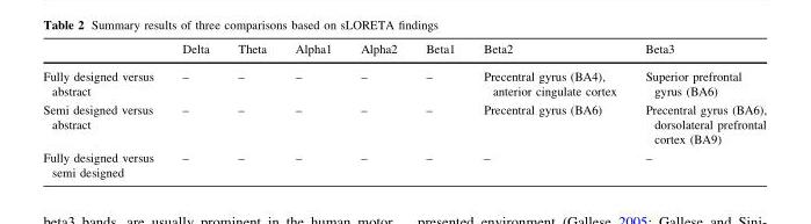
<table><thead><tr><td></td><td>Delta</td><td>Theta</td><td>Alpha1</td><td>Alpha2</td><td>Beta1</td><td>Beta2</td><td>Beta3</td></tr></thead><tbody><tr><td>Fully designed versus abstract</td><td>–</td><td>–</td><td>–</td><td>–</td><td>–</td><td>Precentral gyrus (BA4), anterior cingulate cortex</td><td>Superior prefrontal gyrus (BA6)</td></tr><tr><td>Semi designed versus abstract</td><td>–</td><td>–</td><td>–</td><td>–</td><td>–</td><td>Precentral gyrus (BA6)</td><td>Precentral gyrus (BA6), dorsolateral prefrontal cortex (BA9)</td></tr><tr><td>Fully designed versus semi designed</td><td>–</td><td>–</td><td>–</td><td>–</td><td>–</td><td>–</td><td>–</td></tr></tbody></table>